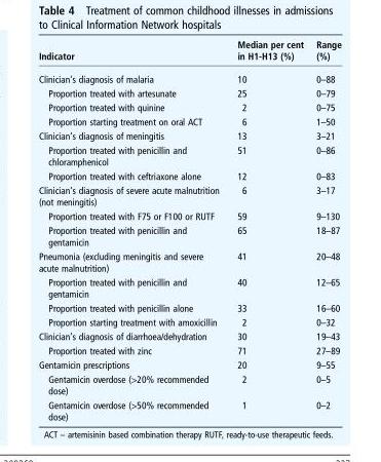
<table><thead><tr><td>Indicator</td><td>Median per cent in H1-H13 (%)</td><td>Range (%)</td></tr></thead><tbody><tr><td>Clinician’s diagnosis of malaria</td><td>10</td><td>0–88</td></tr><tr><td>Proportion treated with artesunate</td><td>25</td><td>0–79</td></tr><tr><td>Proportion treated with quinine</td><td>2</td><td>0–75</td></tr><tr><td>Proportion starting treatment on oral ACT</td><td>6</td><td>1–50</td></tr><tr><td>Clinician’s diagnosis of meningitis</td><td>13</td><td>3–21</td></tr><tr><td>Proportion treated with penicillin and chloramphenicol</td><td>51</td><td>0–86</td></tr><tr><td>Proportion treated with ceftriaxone alone</td><td>12</td><td>0–83</td></tr><tr><td>Clinician’s diagnosis of severe acute malnutrition (not meningitis)</td><td>6</td><td>3–17</td></tr><tr><td>Proportion treated with F75 or F100 or RUTF</td><td>59</td><td>9–130</td></tr><tr><td>Proportion treated with penicillin and gentamicin</td><td>65</td><td>18–87</td></tr><tr><td>Pneumonia (excluding meningitis and severe acute malnutrition)</td><td>41</td><td>20–48</td></tr><tr><td>Proportion treated with penicillin and gentamicin</td><td>40</td><td>12–65</td></tr><tr><td>Proportion treated with penicillin alone</td><td>33</td><td>16–60</td></tr><tr><td>Proportion starting treatment with amoxicillin</td><td>2</td><td>0–32</td></tr><tr><td>Clinician’s diagnosis of diarrhoea/dehydration</td><td>30</td><td>19–43</td></tr><tr><td>Proportion treated with zinc</td><td>71</td><td>27–89</td></tr><tr><td>Gentamicin prescriptions</td><td>20</td><td>9–55</td></tr><tr><td>Gentamicin overdose (&gt;20% recommended dose)</td><td>2</td><td>0–5</td></tr><tr><td>Gentamicin overdose (&gt;50% recommended dose)</td><td>1</td><td>0–2</td></tr></tbody></table>